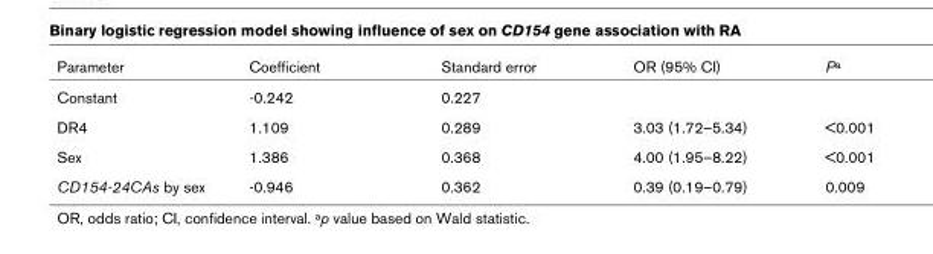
<table><thead><tr><td>Parameter</td><td>Coefficient</td><td>Standard error</td><td>OR (95% CI)</td><td>P<sup>a</sup></td></tr></thead><tbody><tr><td>Constant</td><td>-0.242</td><td>0.227</td><td></td><td></td></tr><tr><td>DR4</td><td>1.109</td><td>0.289</td><td>3.03 (1.72–5.34)</td><td>&lt;0.001</td></tr><tr><td>Sex</td><td>1.386</td><td>0.368</td><td>4.00 (1.95–8.22)</td><td>&lt;0.001</td></tr><tr><td>CD154-24CAs by sex</td><td>-0.946</td><td>0.362</td><td>0.39 (0.19–0.79)</td><td>0.009</td></tr></tbody></table>